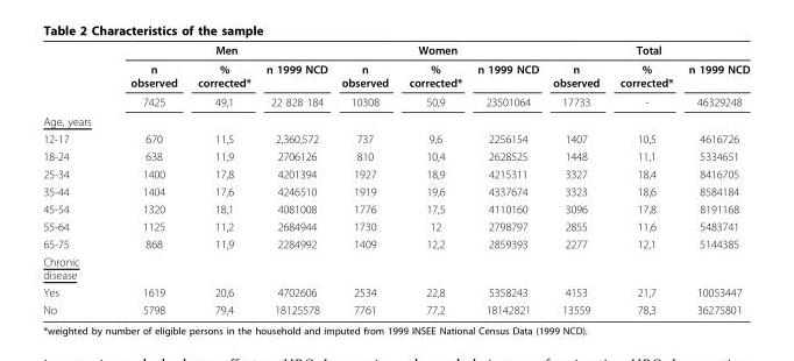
<table><thead><tr><td rowspan="2"></td><td colspan="3">Men</td><td colspan="3">Women</td><td colspan="3">Total</td></tr><tr><td>n observed</td><td>% corrected*</td><td>n 1999 NCD</td><td>n observed</td><td>% corrected*</td><td>n 1999 NCD</td><td>n observed</td><td>% corrected*</td><td>n 1999 NCD</td></tr></thead><tbody><tr><td></td><td>7425</td><td>49,1</td><td>22 828 184</td><td>10308</td><td>50,9</td><td>23501064</td><td>17733</td><td>-</td><td>46329248</td></tr><tr><td colspan="10">Age, years</td></tr><tr><td>12-17</td><td>670</td><td>11,5</td><td>2,360,572</td><td>737</td><td>9,6</td><td>2256154</td><td>1407</td><td>10,5</td><td>4616726</td></tr><tr><td>18-24</td><td>638</td><td>11,9</td><td>2706126</td><td>810</td><td>10,4</td><td>2628525</td><td>1448</td><td>11,1</td><td>5334651</td></tr><tr><td>25-34</td><td>1400</td><td>17,8</td><td>4201394</td><td>1927</td><td>18,9</td><td>4215311</td><td>3327</td><td>18,4</td><td>8416705</td></tr><tr><td>35-44</td><td>1404</td><td>17,6</td><td>4246510</td><td>1919</td><td>19,6</td><td>4337674</td><td>3323</td><td>18,6</td><td>8584184</td></tr><tr><td>45-54</td><td>1320</td><td>18,1</td><td>4081008</td><td>1776</td><td>17,5</td><td>4110160</td><td>3096</td><td>17,8</td><td>8191168</td></tr><tr><td>55-64</td><td>1125</td><td>11,2</td><td>2684944</td><td>1730</td><td>12</td><td>2798797</td><td>2855</td><td>11,6</td><td>5483741</td></tr><tr><td>65-75</td><td>868</td><td>11,9</td><td>2284992</td><td>1409</td><td>12,2</td><td>2859393</td><td>2277</td><td>12,1</td><td>5144385</td></tr><tr><td colspan="10">Chronic disease</td></tr><tr><td>Yes</td><td>1619</td><td>20,6</td><td>4702606</td><td>2534</td><td>22,8</td><td>5358243</td><td>4153</td><td>21,7</td><td>10053447</td></tr><tr><td>No</td><td>5798</td><td>79,4</td><td>18125578</td><td>7761</td><td>77,2</td><td>18142821</td><td>13559</td><td>78,3</td><td>36275801</td></tr></tbody></table>